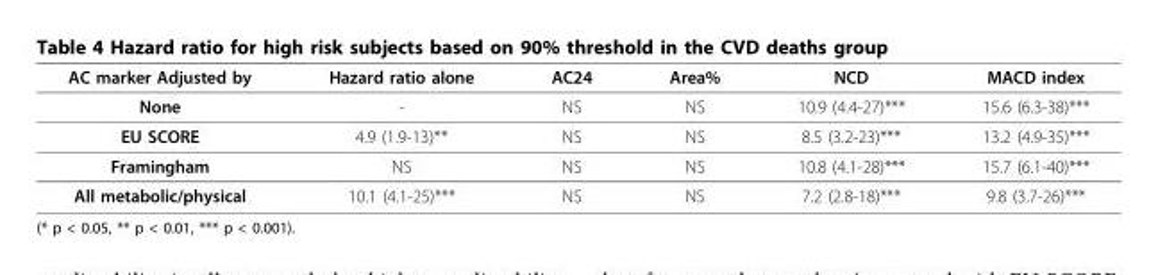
<table><thead><tr><td>AC marker Adjusted by</td><td>Hazard ratio alone</td><td>AC24</td><td>Area%</td><td>NCD</td><td>MACD index</td></tr></thead><tbody><tr><td>None</td><td>-</td><td>NS</td><td>NS</td><td>10.9 (4.4-27)***</td><td>15.6 (6.3-38)***</td></tr><tr><td>EU SCORE</td><td>4.9 (1.9-13)**</td><td>NS</td><td>NS</td><td>8.5 (3.2-23)***</td><td>13.2 (4.9-35)***</td></tr><tr><td>Framingham</td><td>NS</td><td>NS</td><td>NS</td><td>10.8 (4.1-28)***</td><td>15.7 (6.1-40)***</td></tr><tr><td>All metabolic/physical</td><td>10.1 (4.1-25)***</td><td>NS</td><td>NS</td><td>7.2 (2.8-18)***</td><td>9.8 (3.7-26)***</td></tr></tbody></table>